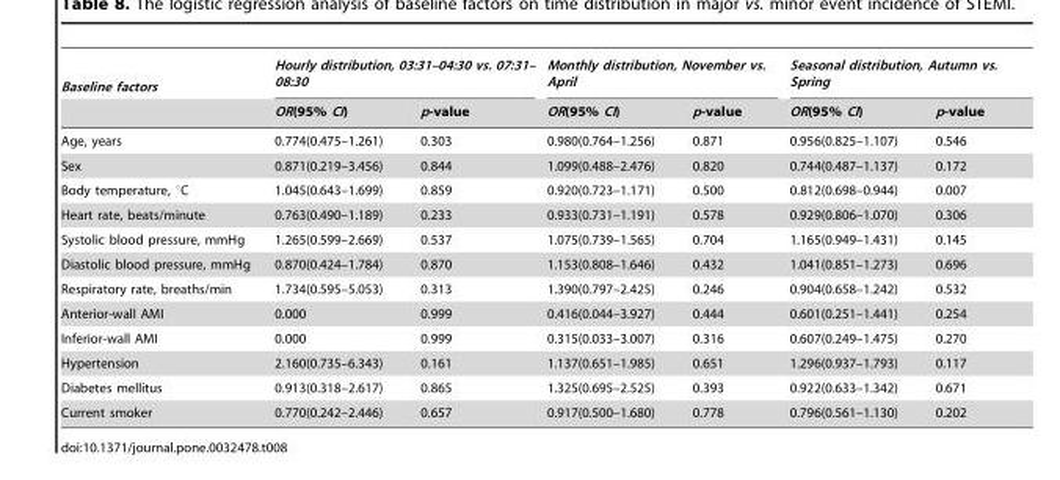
<table><thead><tr><td rowspan="2">Baseline factors</td><td colspan="2">Hourly distribution, 03:31–04:30 vs. 07:31– 08:30</td><td colspan="2">Monthly distribution, November vs. April</td><td colspan="2">Seasonal distribution, Autumn vs. Spring</td></tr><tr><td>OR(95% CI)</td><td>p-value</td><td>OR(95% CI)</td><td>p-value</td><td>OR(95% CI)</td><td>p-value</td></tr></thead><tbody><tr><td>Age, years</td><td>0.774(0.475–1.261)</td><td>0.303</td><td>0.980(0.764–1.256)</td><td>0.871</td><td>0.956(0.825–1.107)</td><td>0.546</td></tr><tr><td>Sex</td><td>0.871(0.219–3.456)</td><td>0.844</td><td>1.099(0.488–2.476)</td><td>0.820</td><td>0.744(0.487–1.137)</td><td>0.172</td></tr><tr><td>Body temperature, °C</td><td>1.045(0.643–1.699)</td><td>0.859</td><td>0.920(0.723–1.171)</td><td>0.500</td><td>0.812(0.698–0.944)</td><td>0.007</td></tr><tr><td>Heart rate, beats/minute</td><td>0.763(0.490–1.189)</td><td>0.233</td><td>0.933(0.731–1.191)</td><td>0.578</td><td>0.929(0.806–1.070)</td><td>0.306</td></tr><tr><td>Systolic blood pressure, mmHg</td><td>1.265(0.599–2.669)</td><td>0.537</td><td>1.075(0.739–1.565)</td><td>0.704</td><td>1.165(0.949–1.431)</td><td>0.145</td></tr><tr><td>Diastolic blood pressure, mmHg</td><td>0.870(0.424–1.784)</td><td>0.870</td><td>1.153(0.808–1.646)</td><td>0.432</td><td>1.041(0.851–1.273)</td><td>0.696</td></tr><tr><td>Respiratory rate, breaths/min</td><td>1.734(0.595–5.053)</td><td>0.313</td><td>1.390(0.797–2.425)</td><td>0.246</td><td>0.904(0.658–1.242)</td><td>0.532</td></tr><tr><td>Anterior-wall AMI</td><td>0.000</td><td>0.999</td><td>0.416(0.044–3.927)</td><td>0.444</td><td>0.601(0.251–1.441)</td><td>0.254</td></tr><tr><td>Inferior-wall AMI</td><td>0.000</td><td>0.999</td><td>0.315(0.033–3.007)</td><td>0.316</td><td>0.607(0.249–1.475)</td><td>0.270</td></tr><tr><td>Hypertension</td><td>2.160(0.735–6.343)</td><td>0.161</td><td>1.137(0.651–1.985)</td><td>0.651</td><td>1.296(0.937–1.793)</td><td>0.117</td></tr><tr><td>Diabetes mellitus</td><td>0.913(0.318–2.617)</td><td>0.865</td><td>1.325(0.695–2.525)</td><td>0.393</td><td>0.922(0.633–1.342)</td><td>0.671</td></tr><tr><td>Current smoker</td><td>0.770(0.242–2.446)</td><td>0.657</td><td>0.917(0.500–1.680)</td><td>0.778</td><td>0.796(0.561–1.130)</td><td>0.202</td></tr></tbody></table>